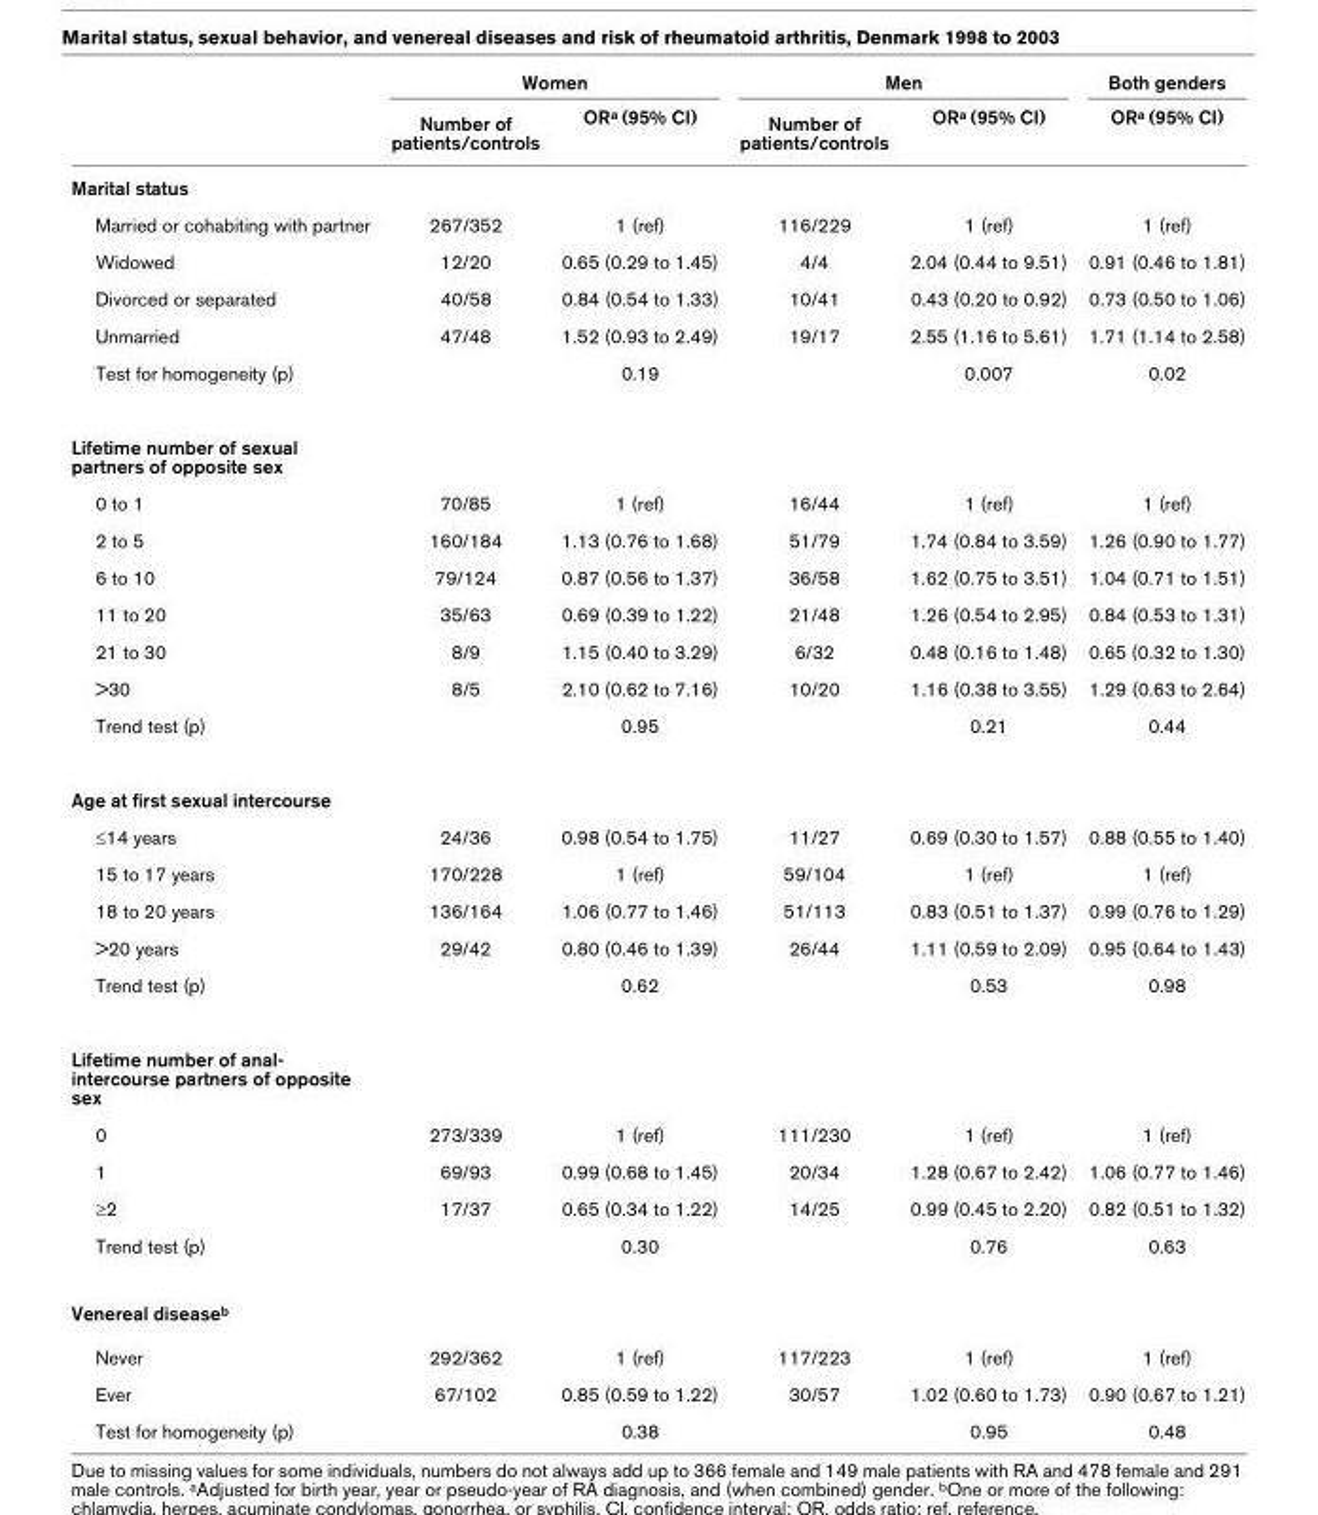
<table><thead><tr><td rowspan="2"></td><td colspan="2">Women</td><td colspan="2">Men</td><td rowspan="2">Both genders ORa (95% CI)</td></tr><tr><td>Number of patients/controls</td><td>ORa (95% CI)</td><td>Number of patients/controls</td><td>ORa (95% CI)</td></tr></thead><tbody><tr><td colspan="6">Marital status</td></tr><tr><td>Married or cohabiting with partner</td><td>267/352</td><td>1 (ref)</td><td>116/229</td><td>1 (ref)</td><td>1 (ref)</td></tr><tr><td>Widowed</td><td>12/20</td><td>0.65 (0.29 to 1.45)</td><td>4/4</td><td>2.04 (0.44 to 9.51)</td><td>0.91 (0.46 to 1.81)</td></tr><tr><td>Divorced or separated</td><td>40/58</td><td>0.84 (0.54 to 1.33)</td><td>10/41</td><td>0.43 (0.20 to 0.92)</td><td>0.73 (0.50 to 1.06)</td></tr><tr><td>Unmarried</td><td>47/48</td><td>1.52 (0.93 to 2.49)</td><td>19/17</td><td>2.55 (1.16 to 5.61)</td><td>1.71 (1.14 to 2.58)</td></tr><tr><td>Test for homogeneity (p)</td><td></td><td>0.19</td><td></td><td>0.007</td><td>0.02</td></tr><tr><td colspan="6">Lifetime number of sexual partners of opposite sex</td></tr><tr><td>0 to 1</td><td>70/85</td><td>1 (ref)</td><td>16/44</td><td>1 (ref)</td><td>1 (ref)</td></tr><tr><td>2 to 5</td><td>160/184</td><td>1.13 (0.76 to 1.68)</td><td>51/79</td><td>1.74 (0.84 to 3.59)</td><td>1.26 (0.90 to 1.77)</td></tr><tr><td>6 to 10</td><td>79/124</td><td>0.87 (0.56 to 1.37)</td><td>36/58</td><td>1.62 (0.75 to 3.51)</td><td>1.04 (0.71 to 1.51)</td></tr><tr><td>11 to 20</td><td>35/63</td><td>0.69 (0.39 to 1.22)</td><td>21/48</td><td>1.26 (0.54 to 2.95)</td><td>0.84 (0.53 to 1.31)</td></tr><tr><td>21 to 30</td><td>8/9</td><td>1.15 (0.40 to 3.29)</td><td>6/32</td><td>0.48 (0.16 to 1.48)</td><td>0.65 (0.32 to 1.30)</td></tr><tr><td>&gt;30</td><td>8/5</td><td>2.10 (0.62 to 7.16)</td><td>10/20</td><td>1.16 (0.38 to 3.55)</td><td>1.29 (0.63 to 2.64)</td></tr><tr><td>Trend test (p)</td><td></td><td>0.95</td><td></td><td>0.21</td><td>0.44</td></tr><tr><td colspan="6">Age at first sexual intercourse</td></tr><tr><td>≤14 years</td><td>24/36</td><td>0.98 (0.54 to 1.75)</td><td>11/27</td><td>0.69 (0.30 to 1.57)</td><td>0.88 (0.55 to 1.40)</td></tr><tr><td>15 to 17 years</td><td>170/228</td><td>1 (ref)</td><td>59/104</td><td>1 (ref)</td><td>1 (ref)</td></tr><tr><td>18 to 20 years</td><td>136/164</td><td>1.06 (0.77 to 1.46)</td><td>51/113</td><td>0.83 (0.51 to 1.37)</td><td>0.99 (0.76 to 1.29)</td></tr><tr><td>&gt;20 years</td><td>29/42</td><td>0.80 (0.46 to 1.39)</td><td>26/44</td><td>1.11 (0.59 to 2.09)</td><td>0.95 (0.64 to 1.43)</td></tr><tr><td>Trend test (p)</td><td></td><td>0.62</td><td></td><td>0.53</td><td>0.98</td></tr><tr><td colspan="6">Lifetime number of anal- intercourse partners of opposite sex</td></tr><tr><td>0</td><td>273/339</td><td>1 (ref)</td><td>111/230</td><td>1 (ref)</td><td>1 (ref)</td></tr><tr><td>1</td><td>69/93</td><td>0.99 (0.68 to 1.45)</td><td>20/34</td><td>1.28 (0.67 to 2.42)</td><td>1.06 (0.77 to 1.46)</td></tr><tr><td>≥2</td><td>17/37</td><td>0.65 (0.34 to 1.22)</td><td>14/25</td><td>0.99 (0.45 to 2.20)</td><td>0.82 (0.51 to 1.32)</td></tr><tr><td>Trend test (p)</td><td></td><td>0.30</td><td></td><td>0.76</td><td>0.63</td></tr><tr><td colspan="6">Venereal diseaseb</td></tr><tr><td>Never</td><td>292/362</td><td>1 (ref)</td><td>117/223</td><td>1 (ref)</td><td>1 (ref)</td></tr><tr><td>Ever</td><td>67/102</td><td>0.85 (0.59 to 1.22)</td><td>30/57</td><td>1.02 (0.60 to 1.73)</td><td>0.90 (0.67 to 1.21)</td></tr><tr><td>Test for homogeneity (p)</td><td></td><td>0.38</td><td></td><td>0.95</td><td>0.48</td></tr></tbody></table>